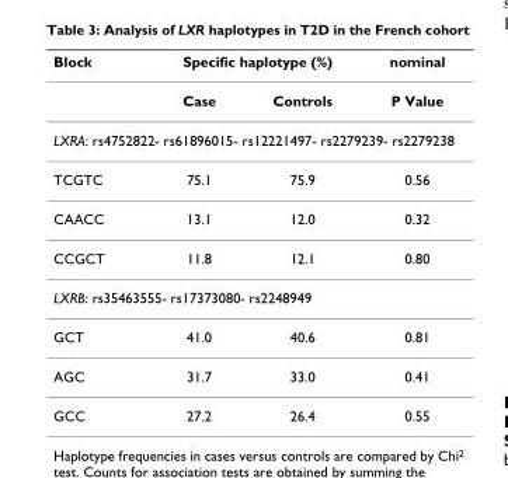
<table><thead><tr><td rowspan="2">Block</td><td colspan="2">Specific haplotype (%)</td><td rowspan="2">nominal P Value</td></tr><tr><td>Case</td><td>Controls</td></tr></thead><tbody><tr><td colspan="4">LXRA: rs4752822- rs61896015- rs12221497- rs2279239- rs2279238</td></tr><tr><td>TCGTC</td><td>75.1</td><td>75.9</td><td>0.56</td></tr><tr><td>CAACC</td><td>13.1</td><td>12.0</td><td>0.32</td></tr><tr><td>CCGCT</td><td>11.8</td><td>12.1</td><td>0.80</td></tr><tr><td colspan="4">LXRB: rs35463555- rs17373080- rs2248949</td></tr><tr><td>GCT</td><td>41.0</td><td>40.6</td><td>0.81</td></tr><tr><td>AGC</td><td>31.7</td><td>33.0</td><td>0.41</td></tr><tr><td>GCC</td><td>27.2</td><td>26.4</td><td>0.55</td></tr></tbody></table>